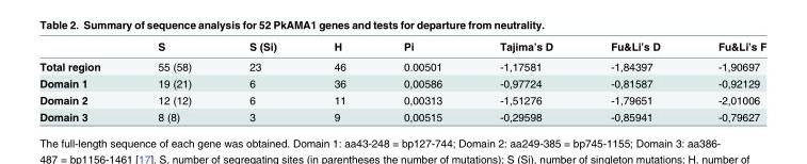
<table><thead><tr><td></td><td>S</td><td>S (Si)</td><td>H</td><td>Pi</td><td>Tajima’s D</td><td>Fu&amp;Li’s D</td><td>Fu&amp;Li’s F</td></tr></thead><tbody><tr><td>Total region</td><td>55 (58)</td><td>23</td><td>46</td><td>0.00501</td><td>-1,17581</td><td>-1,84397</td><td>-1,90697</td></tr><tr><td>Domain 1</td><td>19 (21)</td><td>6</td><td>36</td><td>0,00586</td><td>-0,97724</td><td>-0,81587</td><td>-0,92129</td></tr><tr><td>Domain 2</td><td>12 (12)</td><td>6</td><td>11</td><td>0,00313</td><td>-1,51276</td><td>-1,79651</td><td>-2,01006</td></tr><tr><td>Domain 3</td><td>8 (8)</td><td>3</td><td>9</td><td>0,00515</td><td>-0,29598</td><td>-0,85941</td><td>-0,79627</td></tr></tbody></table>